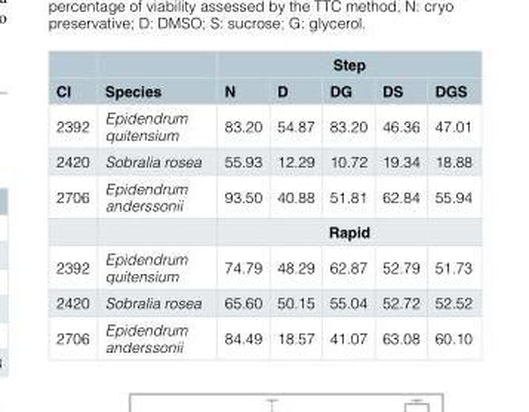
<table><thead><tr><td rowspan="2">CI</td><td rowspan="2">Species</td><td colspan="5">Step</td></tr><tr><td>N</td><td>D</td><td>DG</td><td>DS</td><td>DGS</td></tr></thead><tbody><tr><td>2392</td><td>Epidendrum quitensium</td><td>83.20</td><td>54.87</td><td>83.20</td><td>46.36</td><td>47.01</td></tr><tr><td>2420</td><td>Sobralia rosea</td><td>55.93</td><td>12.29</td><td>10.72</td><td>19.34</td><td>18.88</td></tr><tr><td rowspan="2">2706</td><td>Epidendrum anderssonii</td><td>93.50</td><td>40.88</td><td>51.81</td><td>62.84</td><td>55.94</td></tr><tr><td></td><td colspan="5">Rapid</td></tr><tr><td>2392</td><td>Epidendrum quitensium</td><td>74.79</td><td>48.29</td><td>62.87</td><td>52.79</td><td>51.73</td></tr><tr><td>2420</td><td>Sobralia rosea</td><td>65.60</td><td>50.15</td><td>55.04</td><td>52.72</td><td>52.52</td></tr><tr><td>2706</td><td>Epidendrum anderssonii</td><td>84.49</td><td>18.57</td><td>41.07</td><td>63.08</td><td>60.10</td></tr></tbody></table>